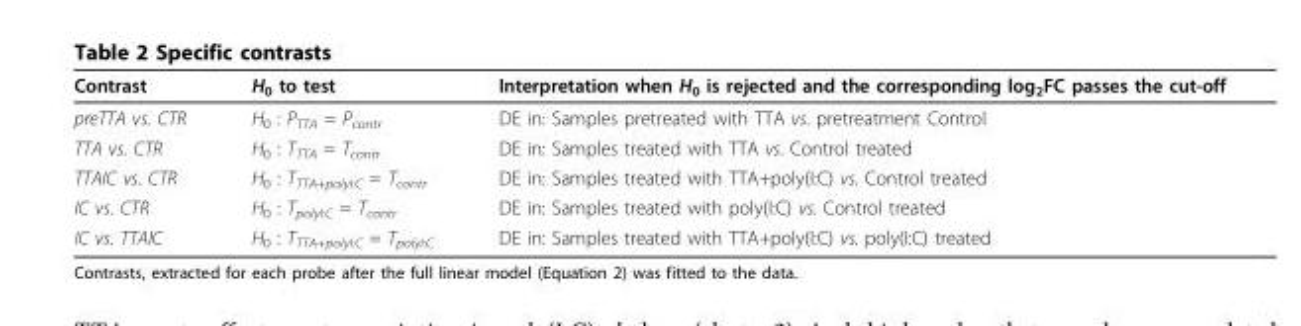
<table><thead><tr><td>Contrast</td><td>H<sub>0</sub> to test</td><td>Interpretation when H<sub>0</sub> is rejected and the corresponding log<sub>2</sub>FC passes the cut-off</td></tr></thead><tbody><tr><td>preTTA vs. CTR</td><td>H<sub>0</sub> : P<sub>TTA</sub> = P<sub>contr</sub></td><td>DE in: Samples pretreated with TTA vs. pretreatment Control</td></tr><tr><td>TTA vs. CTR</td><td>H<sub>0</sub> : T<sub>TTA</sub> = T<sub>contr</sub></td><td>DE in: Samples treated with TTA vs. Control treated</td></tr><tr><td>TTAIC vs. CTR</td><td>H<sub>0</sub> : T<sub>TTA+polyI:C</sub> = T<sub>contr</sub></td><td>DE in: Samples treated with TTA+poly(I:C) vs. Control treated</td></tr><tr><td>IC vs. CTR</td><td>H<sub>0</sub> : T<sub>polyI:C</sub> = T<sub>contr</sub></td><td>DE in: Samples treated with poly(I:C) vs. Control treated</td></tr><tr><td>IC vs. TTAIC</td><td>H<sub>0</sub> : T<sub>TTA+polyI:C</sub> = T<sub>polyI:C</sub></td><td>DE in: Samples treated with TTA+poly(I:C) vs. poly(I:C) treated</td></tr></tbody></table>